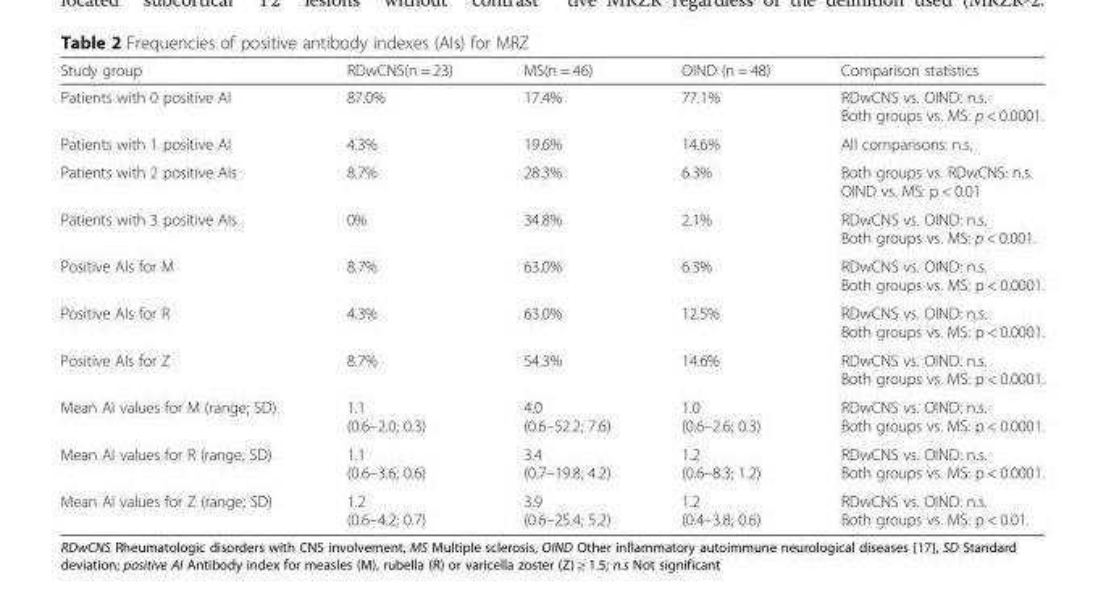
<table><thead><tr><td>Study group</td><td>RDwCNS(n = 23)</td><td>MS(n = 46)</td><td>OIND (n = 48)</td><td>Comparison statistics</td></tr></thead><tbody><tr><td>Patients with 0 positive AI</td><td>87.0%</td><td>17.4%</td><td>77.1%</td><td>RDwCNS vs. OIND: n.s. Both groups vs. MS: p &lt; 0.0001.</td></tr><tr><td>Patients with 1 positive AI</td><td>4.3%</td><td>19.6%</td><td>14.6%</td><td>All comparisons: n.s.</td></tr><tr><td>Patients with 2 positive AIs</td><td>8.7%</td><td>28.3%</td><td>6.3%</td><td>Both groups vs. RDwCNS: n.s. OIND vs. MS: p &lt; 0.01</td></tr><tr><td>Patients with 3 positive AIs</td><td>0%</td><td>34.8%</td><td>2.1%</td><td>RDwCNS vs. OIND: n.s. Both groups vs. MS: p &lt; 0.001.</td></tr><tr><td>Positive AIs for M</td><td>8.7%</td><td>63.0%</td><td>6.3%</td><td>RDwCNS vs. OIND: n.s. Both groups vs. MS: p &lt; 0.0001.</td></tr><tr><td>Positive AIs for R</td><td>4.3%</td><td>63.0%</td><td>12.5%</td><td>RDwCNS vs. OIND: n.s. Both groups vs. MS: p &lt; 0.0001.</td></tr><tr><td>Positive AIs for Z</td><td>8.7%</td><td>54.3%</td><td>14.6%</td><td>RDwCNS vs. OIND: n.s. Both groups vs. MS: p &lt; 0.0001.</td></tr><tr><td>Mean AI values for M (range; SD)</td><td>1.1 (0.6–2.0; 0.3)</td><td>4.0 (0.6–52.2; 7.6)</td><td>1.0 (0.6–2.6; 0.3)</td><td>RDwCNS vs. OIND: n.s. Both groups vs. MS: p &lt; 0.0001.</td></tr><tr><td>Mean AI values for R (range; SD)</td><td>1.1 (0.6–3.6; 0.6)</td><td>3.4 (0.7–19.8; 4.2)</td><td>1.2 (0.6–8.3; 1.2)</td><td>RDwCNS vs. OIND: n.s. Both groups vs. MS: p &lt; 0.0001.</td></tr><tr><td>Mean AI values for Z (range; SD)</td><td>1.2 (0.6–4.2; 0.7)</td><td>3.9 (0.6–25.4; 5.2)</td><td>1.2 (0.4–3.8; 0.6)</td><td>RDwCNS vs. OIND: n.s. Both groups vs. MS: p &lt; 0.01.</td></tr></tbody></table>